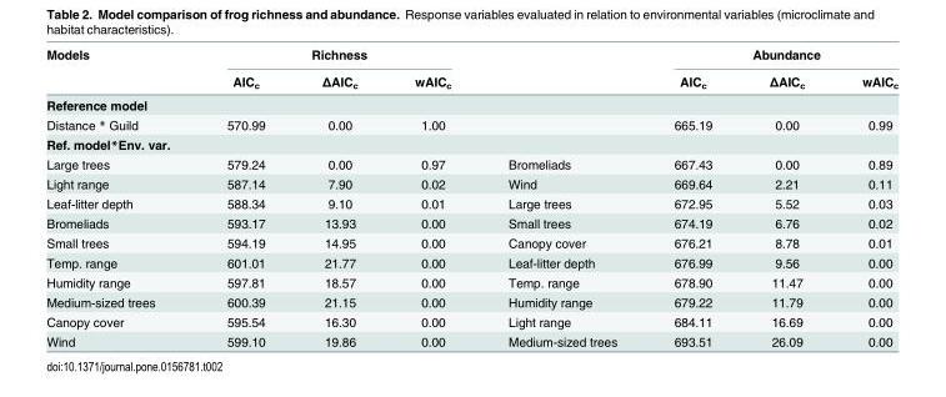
<table><thead><tr><td rowspan="2">Models</td><td colspan="3">Richness</td><td rowspan="2"></td><td colspan="3">Abundance</td></tr><tr><td>AIC<sub>c</sub></td><td>ΔAIC<sub>c</sub></td><td>wAIC<sub>c</sub></td><td>AIC<sub>c</sub></td><td>ΔAIC<sub>c</sub></td><td>wAIC<sub>c</sub></td></tr></thead><tbody><tr><td colspan="8">Reference model</td></tr><tr><td>Distance * Guild</td><td>570.99</td><td>0.00</td><td>1.00</td><td></td><td>665.19</td><td>0.00</td><td>0.99</td></tr><tr><td colspan="8">Ref. model*Env. var.</td></tr><tr><td>Large trees</td><td>579.24</td><td>0.00</td><td>0.97</td><td>Bromeliads</td><td>667.43</td><td>0.00</td><td>0.89</td></tr><tr><td>Light range</td><td>587.14</td><td>7.90</td><td>0.02</td><td>Wind</td><td>669.64</td><td>2.21</td><td>0.11</td></tr><tr><td>Leaf-litter depth</td><td>588.34</td><td>9.10</td><td>0.01</td><td>Large trees</td><td>672.95</td><td>5.52</td><td>0.03</td></tr><tr><td>Bromeliads</td><td>593.17</td><td>13.93</td><td>0.00</td><td>Small trees</td><td>674.19</td><td>6.76</td><td>0.02</td></tr><tr><td>Small trees</td><td>594.19</td><td>14.95</td><td>0.00</td><td>Canopy cover</td><td>676.21</td><td>8.78</td><td>0.01</td></tr><tr><td>Temp. range</td><td>601.01</td><td>21.77</td><td>0.00</td><td>Leaf-litter depth</td><td>676.99</td><td>9.56</td><td>0.00</td></tr><tr><td>Humidity range</td><td>597.81</td><td>18.57</td><td>0.00</td><td>Temp. range</td><td>678.90</td><td>11.47</td><td>0.00</td></tr><tr><td>Medium-sized trees</td><td>600.39</td><td>21.15</td><td>0.00</td><td>Humidity range</td><td>679.22</td><td>11.79</td><td>0.00</td></tr><tr><td>Canopy cover</td><td>595.54</td><td>16.30</td><td>0.00</td><td>Light range</td><td>684.11</td><td>16.69</td><td>0.00</td></tr><tr><td>Wind</td><td>599.10</td><td>19.86</td><td>0.00</td><td>Medium-sized trees</td><td>693.51</td><td>26.09</td><td>0.00</td></tr></tbody></table>